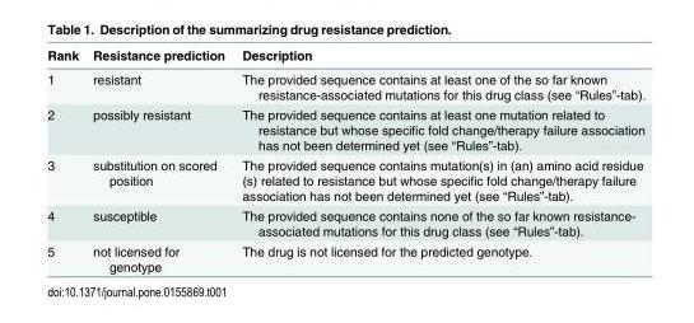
<table><thead><tr><td>Rank</td><td>Resistance prediction</td><td>Description</td></tr></thead><tbody><tr><td>1</td><td>resistant</td><td>The provided sequence contains at least one of the so far known resistance-associated mutations for this drug class (see “Rules”-tab).</td></tr><tr><td>2</td><td>possibly resistant</td><td>The provided sequence contains at least one mutation related to resistance but whose specific fold change/therapy failure association has not been determined yet (see “Rules”-tab).</td></tr><tr><td>3</td><td>substitution on scored position</td><td>The provided sequence contains mutation(s) in (an) amino acid residue (s) related to resistance but whose specific fold change/therapy failure association has not been determined yet (see “Rules”-tab).</td></tr><tr><td>4</td><td>susceptible</td><td>The provided sequence contains none of the so far known resistance- associated mutations for this drug class (see “Rules”-tab).</td></tr><tr><td>5</td><td>not licensed for genotype</td><td>The drug is not licensed for the predicted genotype.</td></tr></tbody></table>